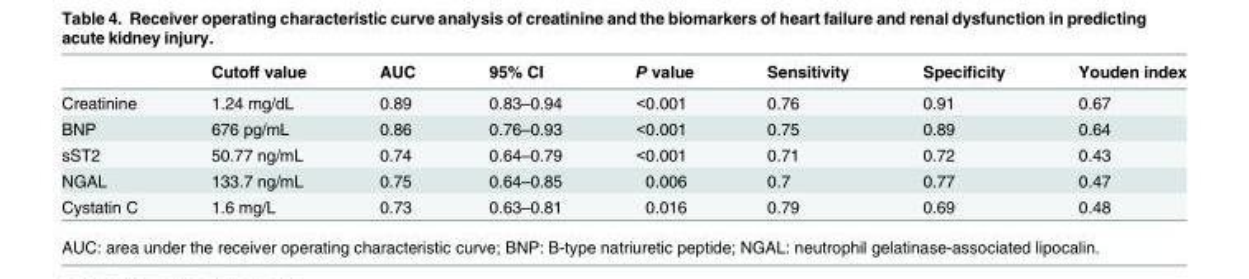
<table><thead><tr><td></td><td>Cutoff value</td><td>AUC</td><td>95% CI</td><td>P value</td><td>Sensitivity</td><td>Specificity</td><td>Youden index</td></tr></thead><tbody><tr><td>Creatinine</td><td>1.24 mg/dL</td><td>0.89</td><td>0.83–0.94</td><td>&lt;0.001</td><td>0.76</td><td>0.91</td><td>0.67</td></tr><tr><td>BNP</td><td>676 pg/mL</td><td>0.86</td><td>0.76–0.93</td><td>&lt;0.001</td><td>0.75</td><td>0.89</td><td>0.64</td></tr><tr><td>sST2</td><td>50.77 ng/mL</td><td>0.74</td><td>0.64–0.79</td><td>&lt;0.001</td><td>0.71</td><td>0.72</td><td>0.43</td></tr><tr><td>NGAL</td><td>133.7 ng/mL</td><td>0.75</td><td>0.64–0.85</td><td>0.006</td><td>0.7</td><td>0.77</td><td>0.47</td></tr><tr><td>Cystatin C</td><td>1.6 mg/L</td><td>0.73</td><td>0.63–0.81</td><td>0.016</td><td>0.79</td><td>0.69</td><td>0.48</td></tr></tbody></table>